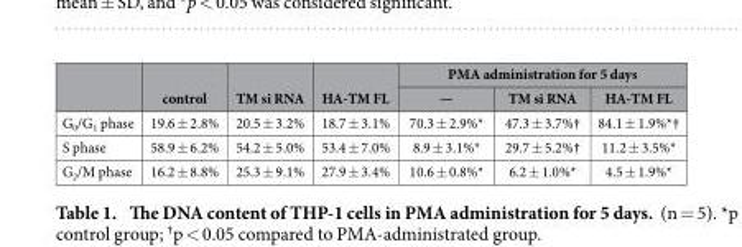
<table><thead><tr><td rowspan="2"></td><td rowspan="2">control</td><td rowspan="2">TM si RNA</td><td rowspan="2">HA-TM FL</td><td colspan="3">PMA administration for 5 days</td></tr><tr><td>—</td><td>TM si RNA</td><td>HA-TM FL</td></tr></thead><tbody><tr><td>G<sub>0</sub>/G<sub>1</sub> phase</td><td>19.6 ± 2.8%</td><td>20.5 ± 3.2%</td><td>18.7 ± 3.1%</td><td>70.3 ± 2.9%*</td><td>47.3 ± 3.7%†</td><td>84.1 ± 1.9%*†</td></tr><tr><td>S phase</td><td>58.9 ± 6.2%</td><td>54.2 ± 5.0%</td><td>53.4 ± 7.0%</td><td>8.9 ± 3.1%*</td><td>29.7 ± 5.2%†</td><td>11.2 ± 3.5%*</td></tr><tr><td>G<sub>2</sub>/M phase</td><td>16.2 ± 8.8%</td><td>25.3 ± 9.1%</td><td>27.9 ± 3.4%</td><td>10.6 ± 0.8%*</td><td>6.2 ± 1.0%*</td><td>4.5 ± 1.9%*</td></tr></tbody></table>